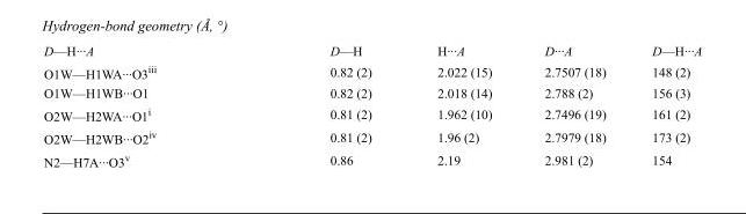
<table><tbody><tr><td>D—H···A</td><td>D—H</td><td>H···A</td><td>D···A</td><td>D—H···A</td></tr><tr><td>O1W—H1WA···O3<sup>iii</sup></td><td>0.82 (2)</td><td>2.022 (15)</td><td>2.7507 (18)</td><td>148 (2)</td></tr><tr><td>O1W—H1WB···O1</td><td>0.82 (2)</td><td>2.018 (14)</td><td>2.788 (2)</td><td>156 (3)</td></tr><tr><td>O2W—H2WA···O1<sup>i</sup></td><td>0.81 (2)</td><td>1.962 (10)</td><td>2.7496 (19)</td><td>161 (2)</td></tr><tr><td>O2W—H2WB···O2<sup>iv</sup></td><td>0.81 (2)</td><td>1.96 (2)</td><td>2.7979 (18)</td><td>173 (2)</td></tr><tr><td>N2—H7A···O3<sup>v</sup></td><td>0.86</td><td>2.19</td><td>2.981 (2)</td><td>154</td></tr></tbody></table>